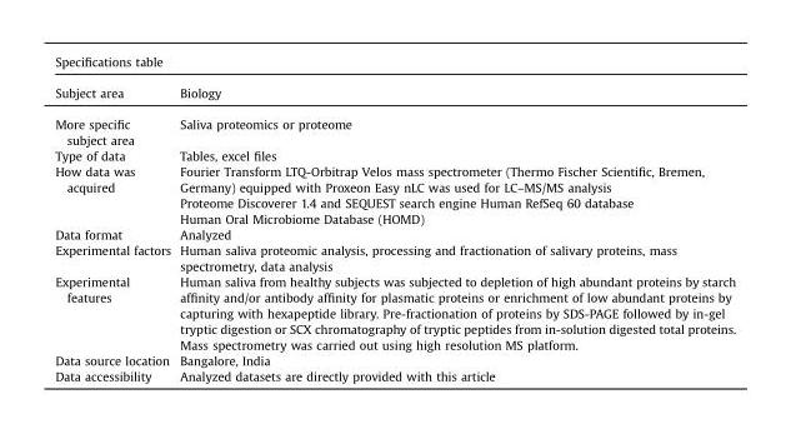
<table><tbody><tr><td colspan="2">Specifications table</td></tr><tr><td>Subject area</td><td>Biology</td></tr><tr><td>More specific subject area</td><td>Saliva proteomics or proteome</td></tr><tr><td>Type of data</td><td>Tables, excel files</td></tr><tr><td rowspan="3">How data was acquired</td><td>Fourier Transform LTQ-Orbitrap Velos mass spectrometer (Thermo Fischer Scientific, Bremen, Germany) equipped with Proxeon Easy nLC was used for LC–MS/MS analysis</td></tr><tr><td>Proteome Discoverer 1.4 and SEQUEST search engine Human RefSeq 60 database</td></tr><tr><td>Human Oral Microbiome Database (HOMD)</td></tr><tr><td>Data format</td><td>Analyzed</td></tr><tr><td>Experimental factors</td><td>Human saliva proteomic analysis, processing and fractionation of salivary proteins, mass spectrometry, data analysis</td></tr><tr><td>Experimental features</td><td>Human saliva from healthy subjects was subjected to depletion of high abundant proteins by starch affinity and/or antibody affinity for plasmatic proteins or enrichment of low abundant proteins by capturing with hexapeptide library. Pre-fractionation of proteins by SDS-PAGE followed by in-gel tryptic digestion or SCX chromatography of tryptic peptides from in-solution digested total proteins. Mass spectrometry was carried out using high resolution MS platform.</td></tr><tr><td>Data source location</td><td>Bangalore, India</td></tr><tr><td>Data accessibility</td><td>Analyzed datasets are directly provided with this article</td></tr></tbody></table>